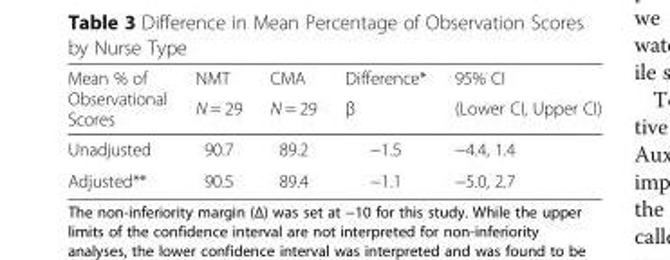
<table><thead><tr><td rowspan="2">Mean % of Observational Scores</td><td rowspan="2">NMT N = 29</td><td rowspan="2">CMA N = 29</td><td rowspan="2">Difference* β</td><td rowspan="2">95% CI (Lower CI, Upper CI)</td></tr><tr></tr></thead><tbody><tr><td>Unadjusted</td><td>90.7</td><td>89.2</td><td>−1.5</td><td>−4.4, 1.4</td></tr><tr><td>Adjusted**</td><td>90.5</td><td>89.4</td><td>−1.1</td><td>−5.0, 2.7</td></tr></tbody></table>